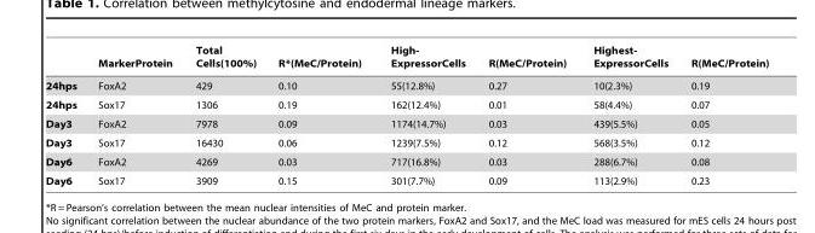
<table><thead><tr><td></td><td>MarkerProtein</td><td>Total Cells(100%)</td><td>R*(MeC/Protein)</td><td>High- ExpressorCells</td><td>R(MeC/Protein)</td><td>Highest- ExpressorCells</td><td>R(MeC/Protein)</td></tr></thead><tbody><tr><td>24hps</td><td>FoxA2</td><td>429</td><td>0.10</td><td>55(12.8%)</td><td>0.27</td><td>10(2.3%)</td><td>0.19</td></tr><tr><td>24hps</td><td>Sox17</td><td>1306</td><td>0.19</td><td>162(12.4%)</td><td>0.01</td><td>58(4.4%)</td><td>0.07</td></tr><tr><td>Day3</td><td>FoxA2</td><td>7978</td><td>0.09</td><td>1174(14.7%)</td><td>0.03</td><td>439(5.5%)</td><td>0.05</td></tr><tr><td>Day3</td><td>Sox17</td><td>16430</td><td>0.06</td><td>1239(7.5%)</td><td>0.12</td><td>568(3.5%)</td><td>0.12</td></tr><tr><td>Day6</td><td>FoxA2</td><td>4269</td><td>0.03</td><td>717(16.8%)</td><td>0.03</td><td>288(6.7%)</td><td>0.08</td></tr><tr><td>Day6</td><td>Sox17</td><td>3909</td><td>0.15</td><td>301(7.7%)</td><td>0.09</td><td>113(2.9%)</td><td>0.23</td></tr></tbody></table>